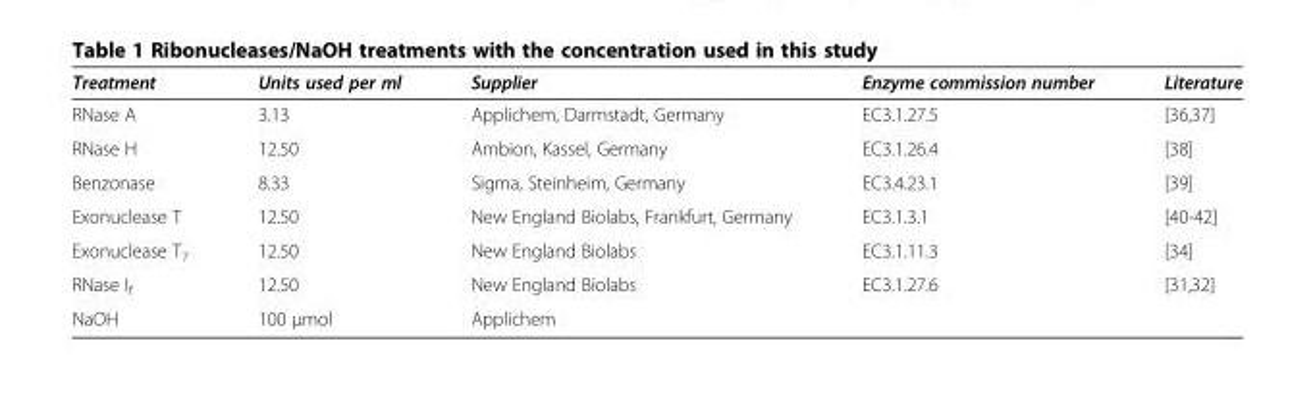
<table><thead><tr><td>Treatment</td><td>Units used per ml</td><td>Supplier</td><td>Enzyme commission number</td><td>Literature</td></tr></thead><tbody><tr><td>RNase A</td><td>3.13</td><td>Applichem, Darmstadt, Germany</td><td>EC3.1.27.5</td><td>[36,37]</td></tr><tr><td>RNase H</td><td>12.50</td><td>Ambion, Kassel, Germany</td><td>EC3.1.26.4</td><td>[38]</td></tr><tr><td>Benzonase</td><td>8.33</td><td>Sigma, Steinheim, Germany</td><td>EC3.4.23.1</td><td>[39]</td></tr><tr><td>Exonuclease T</td><td>12.50</td><td>New England Biolabs, Frankfurt, Germany</td><td>EC3.1.3.1</td><td>[40-42]</td></tr><tr><td>Exonuclease T<sub>7</sub></td><td>12.50</td><td>New England Biolabs</td><td>EC3.1.11.3</td><td>[34]</td></tr><tr><td>RNase I<sub>f</sub></td><td>12.50</td><td>New England Biolabs</td><td>EC3.1.27.6</td><td>[31,32]</td></tr><tr><td>NaOH</td><td>100 μmol</td><td>Applichem</td><td></td><td></td></tr></tbody></table>